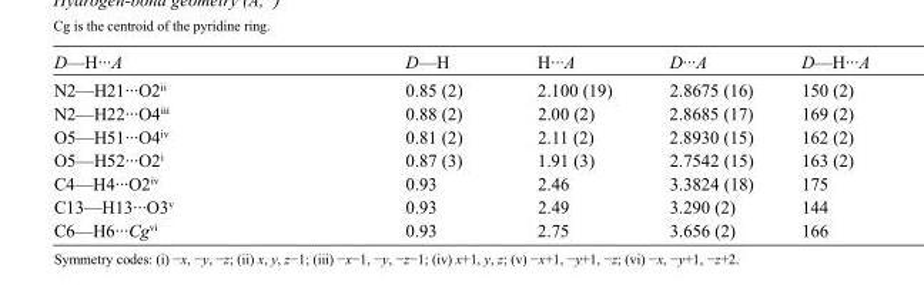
<table><tbody><tr><td>D—H···A</td><td>D—H</td><td>H···A</td><td>D···A</td><td>D—H···A</td></tr><tr><td>N2—H21···O2<sup>ii</sup></td><td>0.85 (2)</td><td>2.100 (19)</td><td>2.8675 (16)</td><td>150 (2)</td></tr><tr><td>N2—H22···O4<sup>iii</sup></td><td>0.88 (2)</td><td>2.00 (2)</td><td>2.8685 (17)</td><td>169 (2)</td></tr><tr><td>O5—H51···O4<sup>iv</sup></td><td>0.81 (2)</td><td>2.11 (2)</td><td>2.8930 (15)</td><td>162 (2)</td></tr><tr><td>O5—H52···O2<sup>i</sup></td><td>0.87 (3)</td><td>1.91 (3)</td><td>2.7542 (15)</td><td>163 (2)</td></tr><tr><td>C4—H4···O2<sup>iv</sup></td><td>0.93</td><td>2.46</td><td>3.3824 (18)</td><td>175</td></tr><tr><td>C13—H13···O3<sup>v</sup></td><td>0.93</td><td>2.49</td><td>3.290 (2)</td><td>144</td></tr><tr><td>C6—H6···Cg<sup>vi</sup></td><td>0.93</td><td>2.75</td><td>3.656 (2)</td><td>166</td></tr></tbody></table>